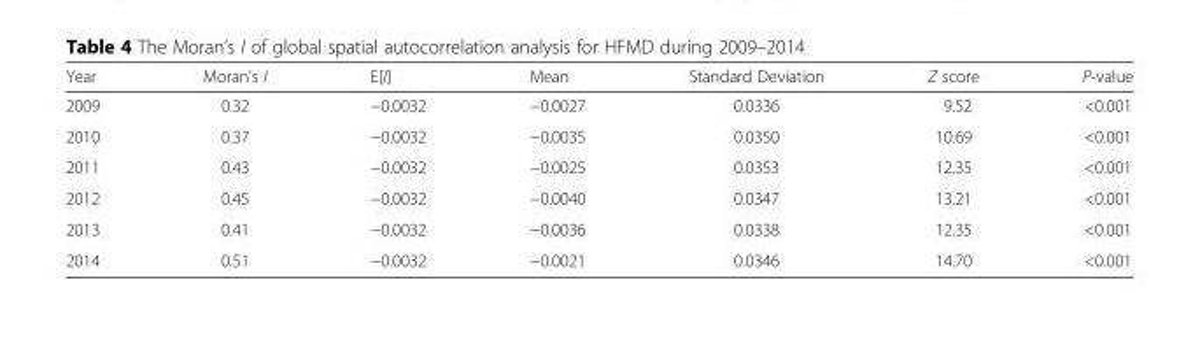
<table><thead><tr><td>Year</td><td>Moran’s I</td><td>E[I]</td><td>Mean</td><td>Standard Deviation</td><td>Z score</td><td>P-value</td></tr></thead><tbody><tr><td>2009</td><td>0.32</td><td>−0.0032</td><td>−0.0027</td><td>0.0336</td><td>9.52</td><td>&lt;0.001</td></tr><tr><td>2010</td><td>0.37</td><td>−0.0032</td><td>−0.0035</td><td>0.0350</td><td>10.69</td><td>&lt;0.001</td></tr><tr><td>2011</td><td>0.43</td><td>−0.0032</td><td>−0.0025</td><td>0.0353</td><td>12.35</td><td>&lt;0.001</td></tr><tr><td>2012</td><td>0.45</td><td>−0.0032</td><td>−0.0040</td><td>0.0347</td><td>13.21</td><td>&lt;0.001</td></tr><tr><td>2013</td><td>0.41</td><td>−0.0032</td><td>−0.0036</td><td>0.0338</td><td>12.35</td><td>&lt;0.001</td></tr><tr><td>2014</td><td>0.51</td><td>−0.0032</td><td>−0.0021</td><td>0.0346</td><td>14.70</td><td>&lt;0.001</td></tr></tbody></table>